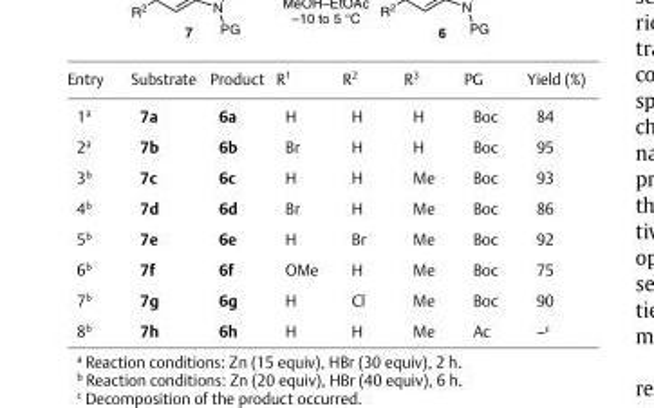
<table><thead><tr><td>Entry</td><td>Substrate</td><td>Product</td><td>R<sup>1</sup></td><td>R<sup>2</sup></td><td>R<sup>3</sup></td><td>PG</td><td>Yield (%)</td></tr></thead><tbody><tr><td>1<sup>a</sup></td><td>7a</td><td>6a</td><td>H</td><td>H</td><td>H</td><td>Boc</td><td>84</td></tr><tr><td>2<sup>a</sup></td><td>7b</td><td>6b</td><td>Br</td><td>H</td><td>H</td><td>Boc</td><td>95</td></tr><tr><td>3<sup>b</sup></td><td>7c</td><td>6c</td><td>H</td><td>H</td><td>Me</td><td>Boc</td><td>93</td></tr><tr><td>4<sup>b</sup></td><td>7d</td><td>6d</td><td>Br</td><td>H</td><td>Me</td><td>Boc</td><td>86</td></tr><tr><td>5<sup>b</sup></td><td>7e</td><td>6e</td><td>H</td><td>Br</td><td>Me</td><td>Boc</td><td>92</td></tr><tr><td>6<sup>b</sup></td><td>7f</td><td>6f</td><td>OMe</td><td>H</td><td>Me</td><td>Boc</td><td>75</td></tr><tr><td>7<sup>b</sup></td><td>7g</td><td>6g</td><td>H</td><td>Cl</td><td>Me</td><td>Boc</td><td>90</td></tr><tr><td>8<sup>b</sup></td><td>7h</td><td>6h</td><td>H</td><td>H</td><td>Me</td><td>Ac</td><td>–<sup>c</sup></td></tr></tbody></table>